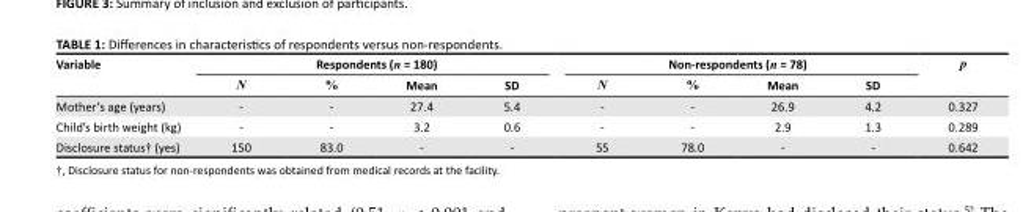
<table><thead><tr><td rowspan="2">Variable</td><td colspan="4">Respondents (n = 180)</td><td colspan="4">Non-respondents (n = 78)</td><td rowspan="2">p</td></tr><tr><td>N</td><td>%</td><td>Mean</td><td>SD</td><td>N</td><td>%</td><td>Mean</td><td>SD</td></tr></thead><tbody><tr><td>Mother’s age (years)</td><td>-</td><td>-</td><td>27.4</td><td>5.4</td><td>-</td><td>-</td><td>26.9</td><td>4.2</td><td>0.327</td></tr><tr><td>Child’s birth weight (kg)</td><td>-</td><td>-</td><td>3.2</td><td>0.6</td><td>-</td><td>-</td><td>2.9</td><td>1.3</td><td>0.289</td></tr><tr><td>Disclosure status† (yes)</td><td>150</td><td>83.0</td><td>-</td><td>-</td><td>55</td><td>78.0</td><td>-</td><td>-</td><td>0.642</td></tr></tbody></table>